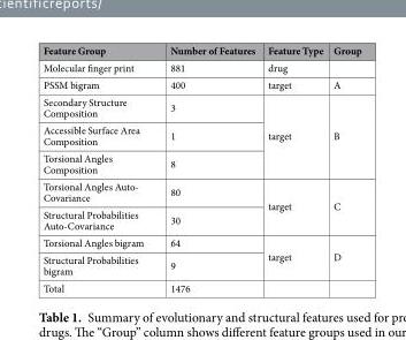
<table><thead><tr><td>Feature Group</td><td>Number of Features</td><td>Feature Type</td><td>Group</td></tr></thead><tbody><tr><td>Molecular finger print</td><td>881</td><td>drug</td><td></td></tr><tr><td>PSSM bigram</td><td>400</td><td>target</td><td>A</td></tr><tr><td>Secondary Structure Composition</td><td>3</td><td rowspan="3">target</td><td rowspan="3">B</td></tr><tr><td>Accessible Surface Area Composition</td><td>1</td></tr><tr><td>Torsional Angles Composition</td><td>8</td></tr><tr><td>Torsional Angles Auto- Covariance</td><td>80</td><td rowspan="2">target</td><td rowspan="2">C</td></tr><tr><td>Structural Probabilities Auto-Covariance</td><td>30</td></tr><tr><td>Torsional Angles bigram</td><td>64</td><td rowspan="2">target</td><td rowspan="2">D</td></tr><tr><td>Structural Probabilities bigram</td><td>9</td></tr><tr><td>Total</td><td>1476</td><td></td><td></td></tr></tbody></table>